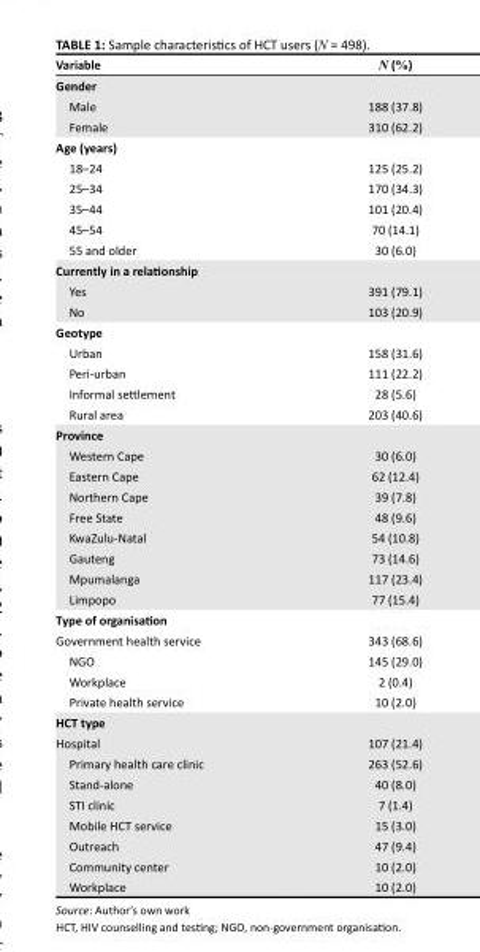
<table><thead><tr><td>Variable</td><td>N (%)</td></tr></thead><tbody><tr><td colspan="2">Gender</td></tr><tr><td>Male</td><td>188 (37.8)</td></tr><tr><td>Female</td><td>310 (62.2)</td></tr><tr><td colspan="2">Age (years)</td></tr><tr><td>18–24</td><td>125 (25.2)</td></tr><tr><td>25–34</td><td>170 (34.3)</td></tr><tr><td>35–44</td><td>101 (20.4)</td></tr><tr><td>45–54</td><td>70 (14.1)</td></tr><tr><td>55 and older</td><td>30 (6.0)</td></tr><tr><td colspan="2">Currently in a relationship</td></tr><tr><td>Yes</td><td>391 (79.1)</td></tr><tr><td>No</td><td>103 (20.9)</td></tr><tr><td colspan="2">Geotype</td></tr><tr><td>Urban</td><td>158 (31.6)</td></tr><tr><td>Peri-urban</td><td>111 (22.2)</td></tr><tr><td>Informal settlement</td><td>28 (5.6)</td></tr><tr><td>Rural area</td><td>203 (40.6)</td></tr><tr><td colspan="2">Province</td></tr><tr><td>Western Cape</td><td>30 (6.0)</td></tr><tr><td>Eastern Cape</td><td>62 (12.4)</td></tr><tr><td>Northern Cape</td><td>39 (7.8)</td></tr><tr><td>Free State</td><td>48 (9.6)</td></tr><tr><td>KwaZulu-Natal</td><td>54 (10.8)</td></tr><tr><td>Gauteng</td><td>73 (14.6)</td></tr><tr><td>Mpumalanga</td><td>117 (23.4)</td></tr><tr><td>Limpopo</td><td>77 (15.4)</td></tr><tr><td colspan="2">Type of organisation</td></tr><tr><td>Government health service</td><td>343 (68.6)</td></tr><tr><td>NGO</td><td>145 (29.0)</td></tr><tr><td>Workplace</td><td>2 (0.4)</td></tr><tr><td>Private health service</td><td>10 (2.0)</td></tr><tr><td colspan="2">HCT type</td></tr><tr><td>Hospital</td><td>107 (21.4)</td></tr><tr><td>Primary health care clinic</td><td>263 (52.6)</td></tr><tr><td>Stand-alone</td><td>40 (8.0)</td></tr><tr><td>STI clinic</td><td>7 (1.4)</td></tr><tr><td>Mobile HCT service</td><td>15 (3.0)</td></tr><tr><td>Outreach</td><td>47 (9.4)</td></tr><tr><td>Community center</td><td>10 (2.0)</td></tr><tr><td>Workplace</td><td>10 (2.0)</td></tr></tbody></table>